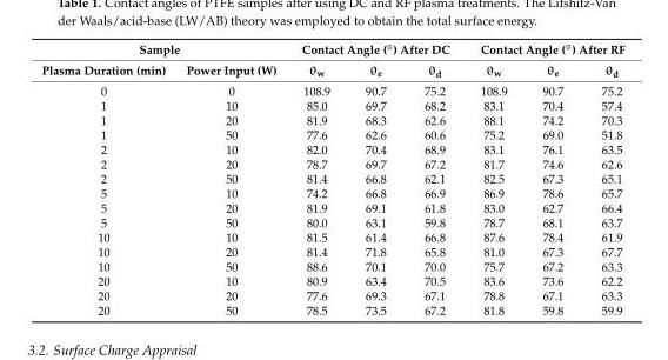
<table><thead><tr><td colspan="2">Sample</td><td colspan="3">Contact Angle (◦) After DC</td><td colspan="3">Contact Angle (◦) After RF</td></tr><tr><td>Plasma Duration (min)</td><td>Power Input (W)</td><td>θ<sub>w</sub></td><td>θ<sub>e</sub></td><td>θ<sub>d</sub></td><td>θ<sub>w</sub></td><td>θ<sub>e</sub></td><td>θ<sub>d</sub></td></tr></thead><tbody><tr><td>0</td><td>0</td><td>108.9</td><td>90.7</td><td>75.2</td><td>108.9</td><td>90.7</td><td>75.2</td></tr><tr><td>1</td><td>10</td><td>85.0</td><td>69.7</td><td>68.2</td><td>83.1</td><td>70.4</td><td>57.4</td></tr><tr><td>1</td><td>20</td><td>81.9</td><td>68.3</td><td>62.6</td><td>88.1</td><td>74.2</td><td>70.3</td></tr><tr><td>1</td><td>50</td><td>77.6</td><td>62.6</td><td>60.6</td><td>75.2</td><td>69.0</td><td>51.8</td></tr><tr><td>2</td><td>10</td><td>82.0</td><td>70.4</td><td>68.9</td><td>83.1</td><td>76.1</td><td>63.5</td></tr><tr><td>2</td><td>20</td><td>78.7</td><td>69.7</td><td>67.2</td><td>81.7</td><td>74.6</td><td>62.6</td></tr><tr><td>2</td><td>50</td><td>81.4</td><td>66.8</td><td>62.1</td><td>82.5</td><td>67.3</td><td>65.1</td></tr><tr><td>5</td><td>10</td><td>74.2</td><td>66.8</td><td>66.9</td><td>86.9</td><td>78.6</td><td>65.7</td></tr><tr><td>5</td><td>20</td><td>81.9</td><td>69.1</td><td>61.8</td><td>83.0</td><td>62.7</td><td>66.4</td></tr><tr><td>5</td><td>50</td><td>80.0</td><td>63.1</td><td>59.8</td><td>78.7</td><td>68.1</td><td>63.7</td></tr><tr><td>10</td><td>10</td><td>81.5</td><td>61.4</td><td>66.8</td><td>87.6</td><td>78.4</td><td>61.9</td></tr><tr><td>10</td><td>20</td><td>81.4</td><td>71.8</td><td>65.8</td><td>81.0</td><td>67.3</td><td>67.7</td></tr><tr><td>10</td><td>50</td><td>88.6</td><td>70.1</td><td>70.0</td><td>75.7</td><td>67.2</td><td>63.3</td></tr><tr><td>20</td><td>10</td><td>80.9</td><td>63.4</td><td>70.5</td><td>83.6</td><td>73.6</td><td>62.2</td></tr><tr><td>20</td><td>20</td><td>77.6</td><td>69.3</td><td>67.1</td><td>78.8</td><td>67.1</td><td>63.3</td></tr><tr><td>20</td><td>50</td><td>78.5</td><td>73.5</td><td>67.2</td><td>81.8</td><td>59.8</td><td>59.9</td></tr></tbody></table>